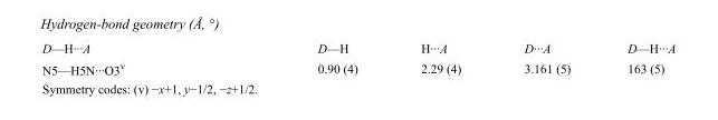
<table><tbody><tr><td>D—H···A</td><td>D—H</td><td>H···A</td><td>D···A</td><td>D—H···A</td></tr><tr><td>N5—H5N···O3<sup>v</sup></td><td>0.90 (4)</td><td>2.29 (4)</td><td>3.161 (5)</td><td>163 (5)</td></tr></tbody></table>